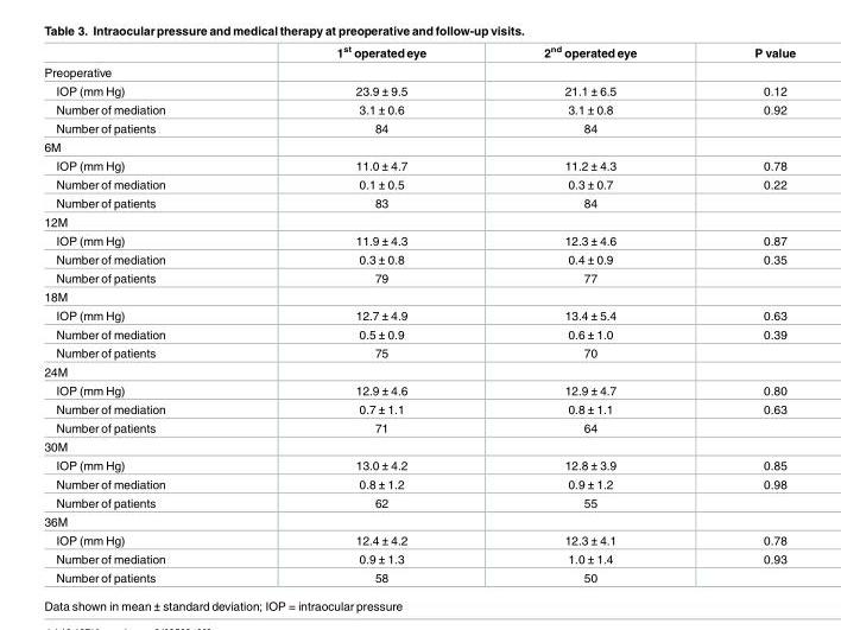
<table><thead><tr><td></td><td>1<sup>st</sup> operated eye</td><td>2<sup>nd</sup> operated eye</td><td>P value</td></tr></thead><tbody><tr><td colspan="4">Preoperative</td></tr><tr><td>IOP (mm Hg)</td><td>23.9 ± 9.5</td><td>21.1 ± 6.5</td><td>0.12</td></tr><tr><td>Number of mediation</td><td>3.1 ± 0.6</td><td>3.1 ± 0.8</td><td>0.92</td></tr><tr><td>Number of patients</td><td>84</td><td>84</td><td></td></tr><tr><td colspan="4">6M</td></tr><tr><td>IOP (mm Hg)</td><td>11.0 ± 4.7</td><td>11.2 ± 4.3</td><td>0.78</td></tr><tr><td>Number of mediation</td><td>0.1 ± 0.5</td><td>0.3 ± 0.7</td><td>0.22</td></tr><tr><td>Number of patients</td><td>83</td><td>84</td><td></td></tr><tr><td colspan="4">12M</td></tr><tr><td>IOP (mm Hg)</td><td>11.9 ± 4.3</td><td>12.3 ± 4.6</td><td>0.87</td></tr><tr><td>Number of mediation</td><td>0.3 ± 0.8</td><td>0.4 ± 0.9</td><td>0.35</td></tr><tr><td>Number of patients</td><td>79</td><td>77</td><td></td></tr><tr><td colspan="4">18M</td></tr><tr><td>IOP (mm Hg)</td><td>12.7 ± 4.9</td><td>13.4 ± 5.4</td><td>0.63</td></tr><tr><td>Number of mediation</td><td>0.5 ± 0.9</td><td>0.6 ± 1.0</td><td>0.39</td></tr><tr><td>Number of patients</td><td>75</td><td>70</td><td></td></tr><tr><td colspan="4">24M</td></tr><tr><td>IOP (mm Hg)</td><td>12.9 ± 4.6</td><td>12.9 ± 4.7</td><td>0.80</td></tr><tr><td>Number of mediation</td><td>0.7 ± 1.1</td><td>0.8 ± 1.1</td><td>0.63</td></tr><tr><td>Number of patients</td><td>71</td><td>64</td><td></td></tr><tr><td colspan="4">30M</td></tr><tr><td>IOP (mm Hg)</td><td>13.0 ± 4.2</td><td>12.8 ± 3.9</td><td>0.85</td></tr><tr><td>Number of mediation</td><td>0.8 ± 1.2</td><td>0.9 ± 1.2</td><td>0.98</td></tr><tr><td>Number of patients</td><td>62</td><td>55</td><td></td></tr><tr><td colspan="4">36M</td></tr><tr><td>IOP (mm Hg)</td><td>12.4 ± 4.2</td><td>12.3 ± 4.1</td><td>0.78</td></tr><tr><td>Number of mediation</td><td>0.9 ± 1.3</td><td>1.0 ± 1.4</td><td>0.93</td></tr><tr><td>Number of patients</td><td>58</td><td>50</td><td></td></tr></tbody></table>